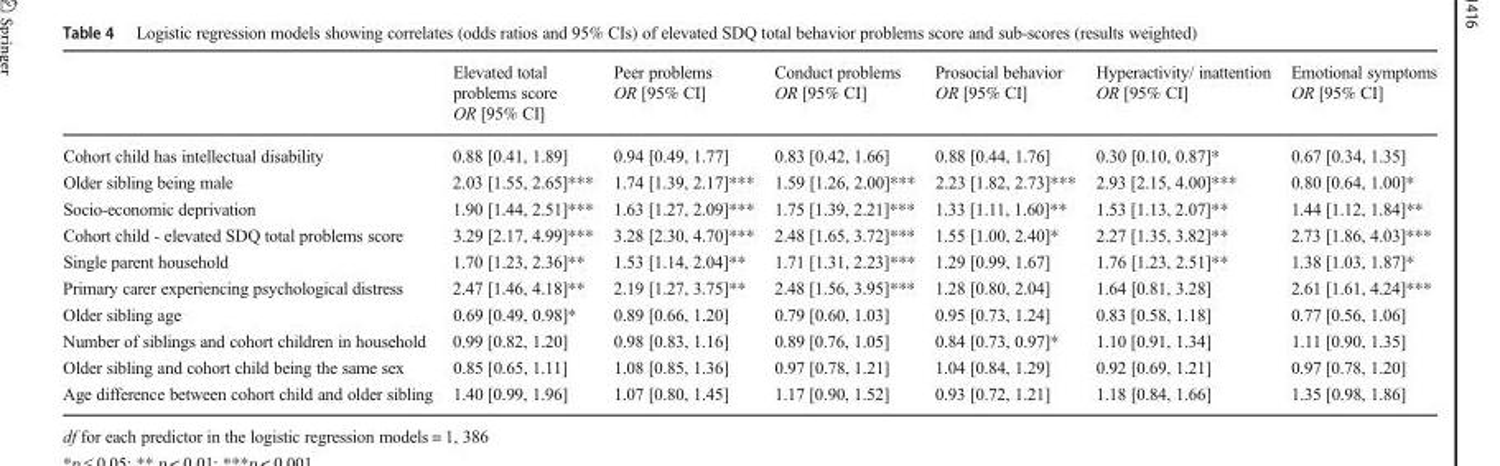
<table><thead><tr><td></td><td>Elevated total problems score OR [95% CI]</td><td>Peer problems OR [95% CI]</td><td>Conduct problems OR [95% CI]</td><td>Prosocial behavior OR [95% CI]</td><td>Hyperactivity/ inattention OR [95% CI]</td><td>Emotional symptoms OR [95% CI]</td></tr></thead><tbody><tr><td>Cohort child has intellectual disability</td><td>0.88 [0.41, 1.89]</td><td>0.94 [0.49, 1.77]</td><td>0.83 [0.42, 1.66]</td><td>0.88 [0.44, 1.76]</td><td>0.30 [0.10, 0.87]*</td><td>0.67 [0.34, 1.35]</td></tr><tr><td>Older sibling being male</td><td>2.03 [1.55, 2.65]***</td><td>1.74 [1.39, 2.17]***</td><td>1.59 [1.26, 2.00]***</td><td>2.23 [1.82, 2.73]***</td><td>2.93 [2.15, 4.00]***</td><td>0.80 [0.64, 1.00]*</td></tr><tr><td>Socio-economic deprivation</td><td>1.90 [1.44, 2.51]***</td><td>1.63 [1.27, 2.09]***</td><td>1.75 [1.39, 2.21]***</td><td>1.33 [1.11, 1.60]**</td><td>1.53 [1.13, 2.07]**</td><td>1.44 [1.12, 1.84]**</td></tr><tr><td>Cohort child - elevated SDQ total problems score</td><td>3.29 [2.17, 4.99]***</td><td>3.28 [2.30, 4.70]***</td><td>2.48 [1.65, 3.72]***</td><td>1.55 [1.00, 2.40]*</td><td>2.27 [1.35, 3.82]**</td><td>2.73 [1.86, 4.03]***</td></tr><tr><td>Single parent household</td><td>1.70 [1.23, 2.36]**</td><td>1.53 [1.14, 2.04]**</td><td>1.71 [1.31, 2.23]***</td><td>1.29 [0.99, 1.67]</td><td>1.76 [1.23, 2.51]**</td><td>1.38 [1.03, 1.87]*</td></tr><tr><td>Primary carer experiencing psychological distress</td><td>2.47 [1.46, 4.18]**</td><td>2.19 [1.27, 3.75]**</td><td>2.48 [1.56, 3.95]***</td><td>1.28 [0.80, 2.04]</td><td>1.64 [0.81, 3.28]</td><td>2.61 [1.61, 4.24]***</td></tr><tr><td>Older sibling age</td><td>0.69 [0.49, 0.98]*</td><td>0.89 [0.66, 1.20]</td><td>0.79 [0.60, 1.03]</td><td>0.95 [0.73, 1.24]</td><td>0.83 [0.58, 1.18]</td><td>0.77 [0.56, 1.06]</td></tr><tr><td>Number of siblings and cohort children in household</td><td>0.99 [0.82, 1.20]</td><td>0.98 [0.83, 1.16]</td><td>0.89 [0.76, 1.05]</td><td>0.84 [0.73, 0.97]*</td><td>1.10 [0.91, 1.34]</td><td>1.11 [0.90, 1.35]</td></tr><tr><td>Older sibling and cohort child being the same sex</td><td>0.85 [0.65, 1.11]</td><td>1.08 [0.85, 1.36]</td><td>0.97 [0.78, 1.21]</td><td>1.04 [0.84, 1.29]</td><td>0.92 [0.69, 1.21]</td><td>0.97 [0.78, 1.20]</td></tr><tr><td>Age difference between cohort child and older sibling</td><td>1.40 [0.99, 1.96]</td><td>1.07 [0.80, 1.45]</td><td>1.17 [0.90, 1.52]</td><td>0.93 [0.72, 1.21]</td><td>1.18 [0.84, 1.66]</td><td>1.35 [0.98, 1.86]</td></tr></tbody></table>